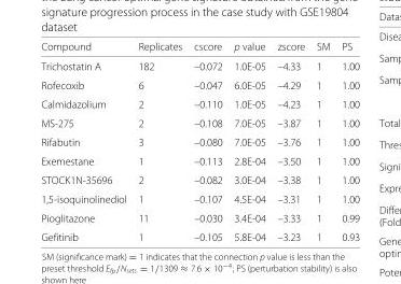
<table><thead><tr><td>Compound</td><td>Replicates</td><td>cscore</td><td>p value</td><td>zscore</td><td>SM</td><td>PS</td></tr></thead><tbody><tr><td>Trichostatin A</td><td>182</td><td>–0.072</td><td>1.0E-05</td><td>–4.33</td><td>1</td><td>1.00</td></tr><tr><td>Rofecoxib</td><td>6</td><td>–0.047</td><td>6.0E-05</td><td>–4.29</td><td>1</td><td>1.00</td></tr><tr><td>Calmidazolium</td><td>2</td><td>–0.110</td><td>1.0E-05</td><td>–4.23</td><td>1</td><td>1.00</td></tr><tr><td>MS-275</td><td>2</td><td>–0.108</td><td>7.0E-05</td><td>–3.87</td><td>1</td><td>1.00</td></tr><tr><td>Rifabutin</td><td>3</td><td>–0.080</td><td>7.0E-05</td><td>–3.76</td><td>1</td><td>1.00</td></tr><tr><td>Exemestane</td><td>1</td><td>–0.113</td><td>2.8E-04</td><td>–3.50</td><td>1</td><td>1.00</td></tr><tr><td>STOCK1N-35696</td><td>2</td><td>–0.082</td><td>3.0E-04</td><td>–3.38</td><td>1</td><td>1.00</td></tr><tr><td>1,5-isoquinolinediol</td><td>1</td><td>–0.107</td><td>4.5E-04</td><td>–3.31</td><td>1</td><td>1.00</td></tr><tr><td>Pioglitazone</td><td>11</td><td>–0.030</td><td>3.4E-04</td><td>–3.33</td><td>1</td><td>0.99</td></tr><tr><td>Gefitinib</td><td>1</td><td>–0.105</td><td>5.8E-04</td><td>–3.23</td><td>1</td><td>0.93</td></tr></tbody></table>